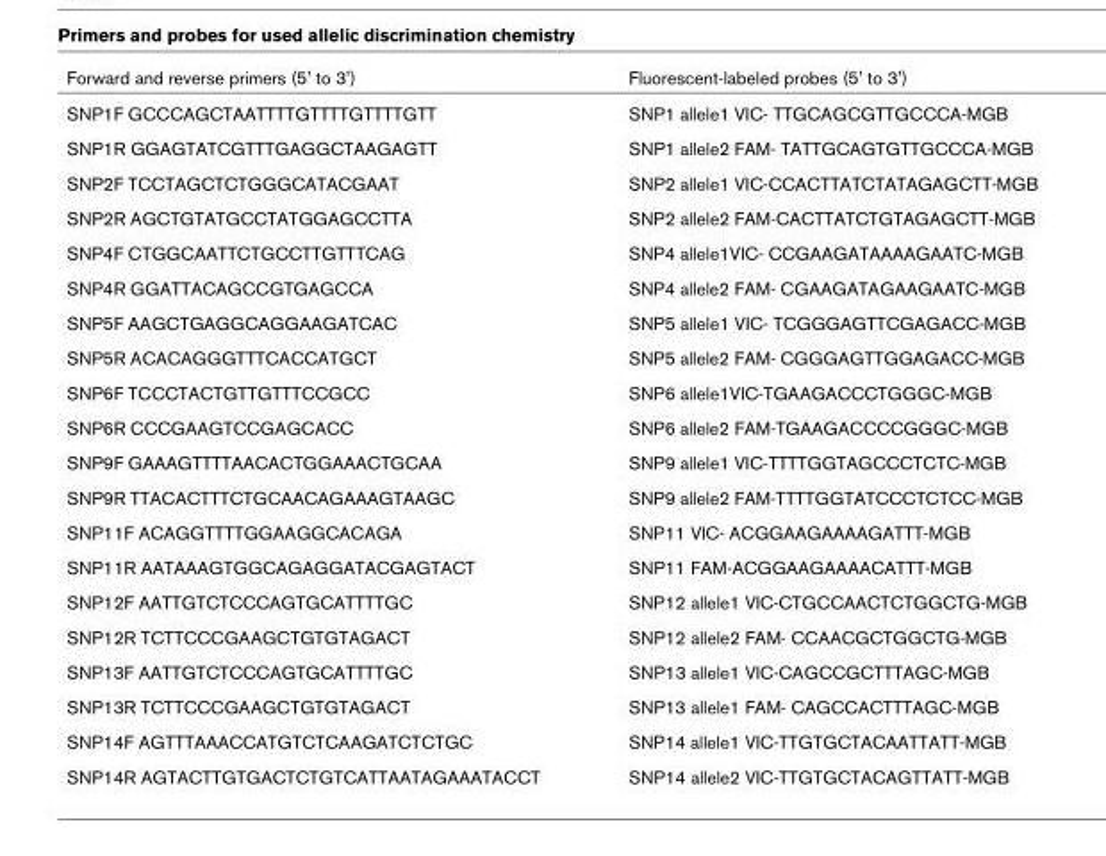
<table><thead><tr><td>Forward and reverse primers (5&#x27; to 3&#x27;)</td><td>Fluorescent-labeled probes (5&#x27; to 3&#x27;)</td></tr></thead><tbody><tr><td>SNP1F GCCCAGCTAATTTTGTTTTGTTTTGTT</td><td>SNP1 allele1 VIC- TTGCAGCGTTGCCCA-MGB</td></tr><tr><td>SNP1R GGAGTATCGTTTGAGGCTAAGAGTT</td><td>SNP1 allele2 FAM- TATTGCAGTGTTGCCCA-MGB</td></tr><tr><td>SNP2F TCCTAGCTCTGGGCATACGAAT</td><td>SNP2 allele1 VIC-CCACTTATCTATAGAGCTT-MGB</td></tr><tr><td>SNP2R AGCTGTATGCCTATGGAGCCTTA</td><td>SNP2 allele2 FAM-CACTTATCTGTAGAGCTT-MGB</td></tr><tr><td>SNP4F CTGGCAATTCTGCCTTGTTTCAG</td><td>SNP4 allele1VIC- CCGAAGATAAAAGAATC-MGB</td></tr><tr><td>SNP4R GGATTACAGCCGTGAGCCA</td><td>SNP4 allele2 FAM- CGAAGATAGAAGAATC-MGB</td></tr><tr><td>SNP5F AAGCTGAGGCAGGAAGATCAC</td><td>SNP5 allele1 VIC- TCGGGAGTTCGAGACC-MGB</td></tr><tr><td>SNP5R ACACAGGGTTTCACCATGCT</td><td>SNP5 allele2 FAM- CGGGAGTTGGAGACC-MGB</td></tr><tr><td>SNP6F TCCCTACTGTTGTTTCCGCC</td><td>SNP6 allele1VIC-TGAAGACCCTGGGC-MGB</td></tr><tr><td>SNP6R CCCGAAGTCCGAGCACC</td><td>SNP6 allele2 FAM-TGAAGACCCCGGGC-MGB</td></tr><tr><td>SNP9F GAAAGTTTTAACACTGGAAACTGCAA</td><td>SNP9 allele1 VIC-TTTTGGTAGCCCTCTC-MGB</td></tr><tr><td>SNP9R TTACACTTTCTGCAACAGAAAGTAAGC</td><td>SNP9 allele2 FAM-TTTTGGTATCCCTCTCC-MGB</td></tr><tr><td>SNP11F ACAGGTTTTGGAAGGCACAGA</td><td>SNP11 VIC- ACGGAAGAAAAGATTT-MGB</td></tr><tr><td>SNP11R AATAAAGTGGCAGAGGATACGAGTACT</td><td>SNP11 FAM-ACGGAAGAAAACATTT-MGB</td></tr><tr><td>SNP12F AATTGTCTCCCAGTGCATTTTGC</td><td>SNP12 allele1 VIC-CTGCCAACTCTGGCTG-MGB</td></tr><tr><td>SNP12R TCTTCCCGAAGCTGTGTAGACT</td><td>SNP12 allele2 FAM- CCAACGCTGGCTG-MGB</td></tr><tr><td>SNP13F AATTGTCTCCCAGTGCATTTTGC</td><td>SNP13 allele1 VIC-CAGCCGCTTTAGC-MGB</td></tr><tr><td>SNP13R TCTTCCCGAAGCTGTGTAGACT</td><td>SNP13 allele1 FAM- CAGCCACTTTAGC-MGB</td></tr><tr><td>SNP14F AGTTTAAACCATGTCTCAAGATCTCTGC</td><td>SNP14 allele1 VIC-TTGTGCTACAATTATT-MGB</td></tr><tr><td>SNP14R AGTACTTGTGACTCTGTCATTAATAGAAATACCT</td><td>SNP14 allele2 VIC-TTGTGCTACAGTTATT-MGB</td></tr></tbody></table>